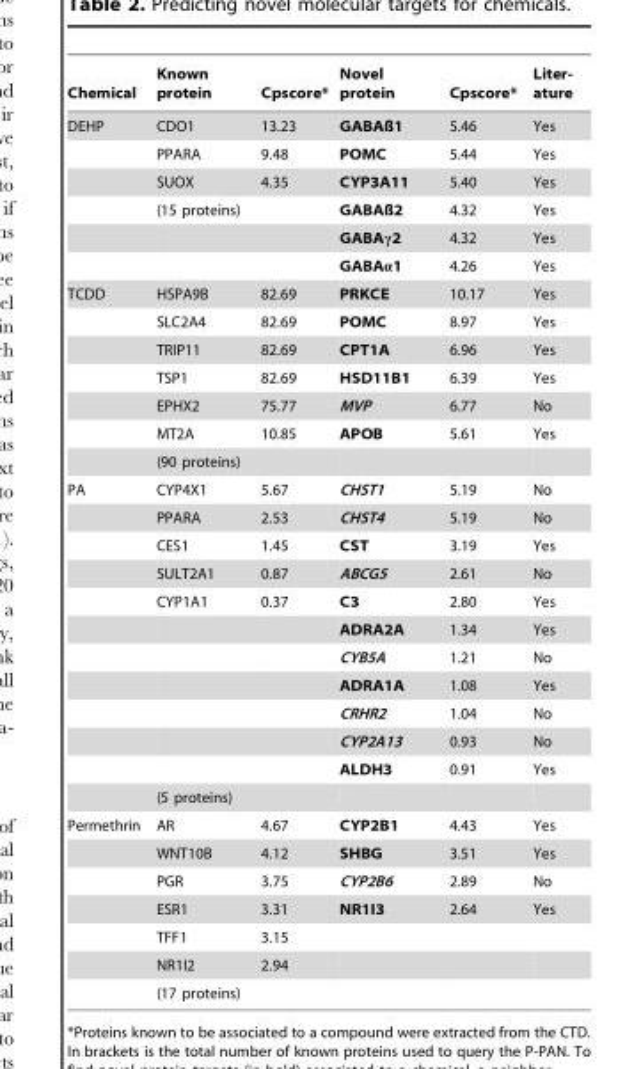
<table><thead><tr><td>Chemical</td><td>Known protein</td><td>Cpscore*</td><td>Novel protein</td><td>Cpscore*</td><td>Liter- ature</td></tr></thead><tbody><tr><td rowspan="6">DEHP</td><td>CDO1</td><td>13.23</td><td>GABAß1</td><td>5.46</td><td>Yes</td></tr><tr><td>PPARA</td><td>9.48</td><td>POMC</td><td>5.44</td><td>Yes</td></tr><tr><td>SUOX</td><td>4.35</td><td>CYP3A11</td><td>5.40</td><td>Yes</td></tr><tr><td>(15 proteins)</td><td></td><td>GABAß2</td><td>4.32</td><td>Yes</td></tr><tr><td></td><td></td><td>GABAγ2</td><td>4.32</td><td>Yes</td></tr><tr><td></td><td></td><td>GABAα1</td><td>4.26</td><td>Yes</td></tr><tr><td rowspan="7">TCDD</td><td>HSPA9B</td><td>82.69</td><td>PRKCE</td><td>10.17</td><td>Yes</td></tr><tr><td>SLC2A4</td><td>82.69</td><td>POMC</td><td>8.97</td><td>Yes</td></tr><tr><td>TRIP11</td><td>82.69</td><td>CPT1A</td><td>6.96</td><td>Yes</td></tr><tr><td>TSP1</td><td>82.69</td><td>HSD11B1</td><td>6.39</td><td>Yes</td></tr><tr><td>EPHX2</td><td>75.77</td><td>MVP</td><td>6.77</td><td>No</td></tr><tr><td>MT2A</td><td>10.85</td><td>APOB</td><td>5.61</td><td>Yes</td></tr><tr><td>(90 proteins)</td><td></td><td></td><td></td><td></td></tr><tr><td rowspan="12">PA</td><td>CYP4X1</td><td>5.67</td><td>CHST1</td><td>5.19</td><td>No</td></tr><tr><td>PPARA</td><td>2.53</td><td>CHST4</td><td>5.19</td><td>No</td></tr><tr><td>CES1</td><td>1.45</td><td>CST</td><td>3.19</td><td>Yes</td></tr><tr><td>SULT2A1</td><td>0.87</td><td>ABCG5</td><td>2.61</td><td>No</td></tr><tr><td>CYP1A1</td><td>0.37</td><td>C3</td><td>2.80</td><td>Yes</td></tr><tr><td></td><td></td><td>ADRA2A</td><td>1.34</td><td>Yes</td></tr><tr><td></td><td></td><td>CYB5A</td><td>1.21</td><td>No</td></tr><tr><td></td><td></td><td>ADRA1A</td><td>1.08</td><td>Yes</td></tr><tr><td></td><td></td><td>CRHR2</td><td>1.04</td><td>No</td></tr><tr><td></td><td></td><td>CYP2A13</td><td>0.93</td><td>No</td></tr><tr><td></td><td></td><td>ALDH3</td><td>0.91</td><td>Yes</td></tr><tr><td>(5 proteins)</td><td></td><td></td><td></td><td></td></tr><tr><td rowspan="7">Permethrin</td><td>AR</td><td>4.67</td><td>CYP2B1</td><td>4.43</td><td>Yes</td></tr><tr><td>WNT10B</td><td>4.12</td><td>SHBG</td><td>3.51</td><td>Yes</td></tr><tr><td>PGR</td><td>3.75</td><td>CYP2B6</td><td>2.89</td><td>No</td></tr><tr><td>ESR1</td><td>3.31</td><td>NR1I3</td><td>2.64</td><td>Yes</td></tr><tr><td>TFF1</td><td>3.15</td><td></td><td></td><td></td></tr><tr><td>NR1I2</td><td>2.94</td><td></td><td></td><td></td></tr><tr><td>(17 proteins)</td><td></td><td></td><td></td><td></td></tr></tbody></table>